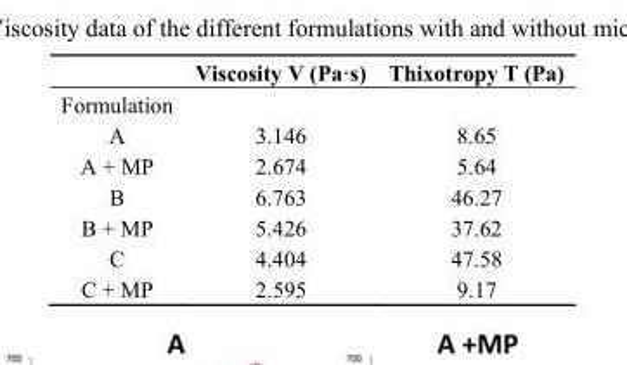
<table><thead><tr><td></td><td>Viscosity V (Pa·s)</td><td>Thixotropy T (Pa)</td></tr></thead><tbody><tr><td colspan="3">Formulation</td></tr><tr><td>A</td><td>3.146</td><td>8.65</td></tr><tr><td>A + MP</td><td>2.674</td><td>5.64</td></tr><tr><td>B</td><td>6.763</td><td>46.27</td></tr><tr><td>B + MP</td><td>5.426</td><td>37.62</td></tr><tr><td>C</td><td>4.404</td><td>47.58</td></tr><tr><td>C + MP</td><td>2.595</td><td>9.17</td></tr></tbody></table>